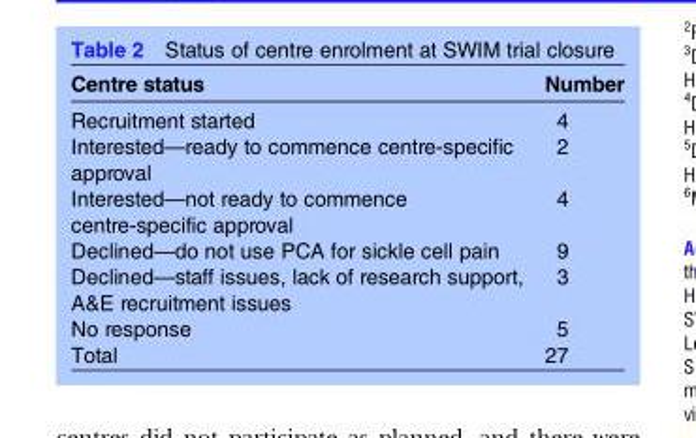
<table><thead><tr><td>Centre status</td><td>Number</td></tr></thead><tbody><tr><td>Recruitment started</td><td>4</td></tr><tr><td>Interested—ready to commence centre-specific approval</td><td>2</td></tr><tr><td>Interested—not ready to commence centre-specific approval</td><td>4</td></tr><tr><td>Declined—do not use PCA for sickle cell pain</td><td>9</td></tr><tr><td>Declined—staff issues, lack of research support, A&amp;E recruitment issues</td><td>3</td></tr><tr><td>No response</td><td>5</td></tr><tr><td>Total</td><td>27</td></tr></tbody></table>